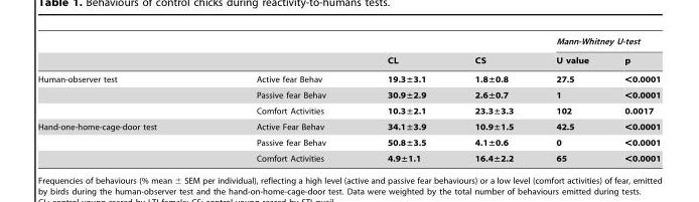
<table><thead><tr><td rowspan="2"></td><td rowspan="2"></td><td rowspan="2">CL</td><td rowspan="2">CS</td><td colspan="2">Mann-Whitney U-test</td></tr><tr><td>U value</td><td>p</td></tr></thead><tbody><tr><td rowspan="3">Human-observer test</td><td>Active fear Behav</td><td>19.3±3.1</td><td>1.8±0.8</td><td>27.5</td><td>&lt;0.0001</td></tr><tr><td>Passive fear Behav</td><td>30.9±2.9</td><td>2.6±0.7</td><td>1</td><td>&lt;0.0001</td></tr><tr><td>Comfort Activities</td><td>10.3±2.1</td><td>23.3±3.3</td><td>102</td><td>0.0017</td></tr><tr><td rowspan="3">Hand-one-home-cage-door test</td><td>Active Fear Behav</td><td>34.1±3.9</td><td>10.9±1.5</td><td>42.5</td><td>&lt;0.0001</td></tr><tr><td>Passive fear Behav</td><td>50.8±3.5</td><td>4.1±0.6</td><td>0</td><td>&lt;0.0001</td></tr><tr><td>Comfort Activities</td><td>4.9±1.1</td><td>16.4±2.2</td><td>65</td><td>&lt;0.0001</td></tr></tbody></table>